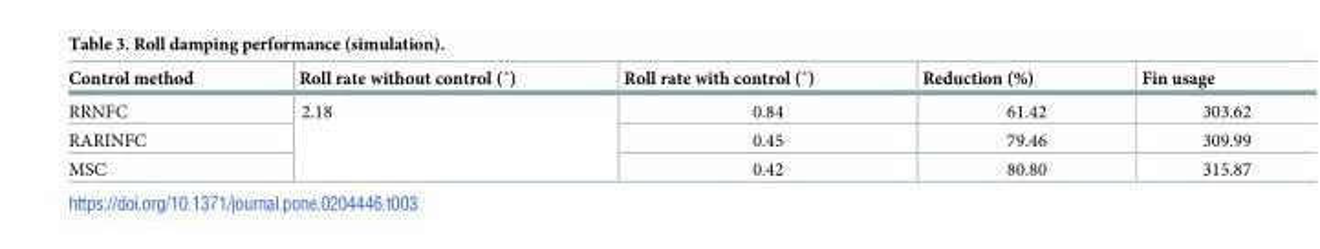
<table><thead><tr><td>Control method</td><td>Roll rate without control (˚)</td><td>Roll rate with control (˚)</td><td>Reduction (%)</td><td>Fin usage</td></tr></thead><tbody><tr><td>RRNFC</td><td rowspan="3">2.18</td><td>0.84</td><td>61.42</td><td>303.62</td></tr><tr><td>RARINFC</td><td>0.45</td><td>79.46</td><td>309.99</td></tr><tr><td>MSC</td><td>0.42</td><td>80.80</td><td>315.87</td></tr></tbody></table>